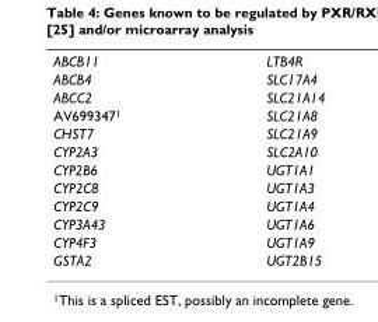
<table><tbody><tr><td>ABCB11</td><td>LTB4R</td></tr><tr><td>ABCB4</td><td>SLC17A4</td></tr><tr><td>ABCC2</td><td>SLC21A14</td></tr><tr><td>AV699347<sup>1</sup></td><td>SLC21A8</td></tr><tr><td>CHST7</td><td>SLC21A9</td></tr><tr><td>CYP2A3</td><td>SLC2A10</td></tr><tr><td>CYP2B6</td><td>UGT1A1</td></tr><tr><td>CYP2C8</td><td>UGT1A3</td></tr><tr><td>CYP2C9</td><td>UGT1A4</td></tr><tr><td>CYP3A43</td><td>UGT1A6</td></tr><tr><td>CYP4F3</td><td>UGT1A9</td></tr><tr><td>GSTA2</td><td>UGT2B15</td></tr></tbody></table>